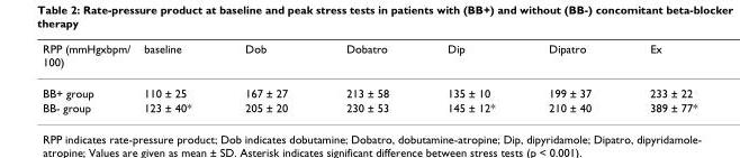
<table><thead><tr><td>RPP (mmHgxbpm/ 100)</td><td>baseline</td><td>Dob</td><td>Dobatro</td><td>Dip</td><td>Dipatro</td><td>Ex</td></tr></thead><tbody><tr><td>BB+ group</td><td>110 ± 25</td><td>167 ± 27</td><td>213 ± 58</td><td>135 ± 10</td><td>199 ± 37</td><td>233 ± 22</td></tr><tr><td>BB- group</td><td>123 ± 40*</td><td>205 ± 20</td><td>230 ± 53</td><td>145 ± 12*</td><td>210 ± 40</td><td>389 ± 77*</td></tr></tbody></table>